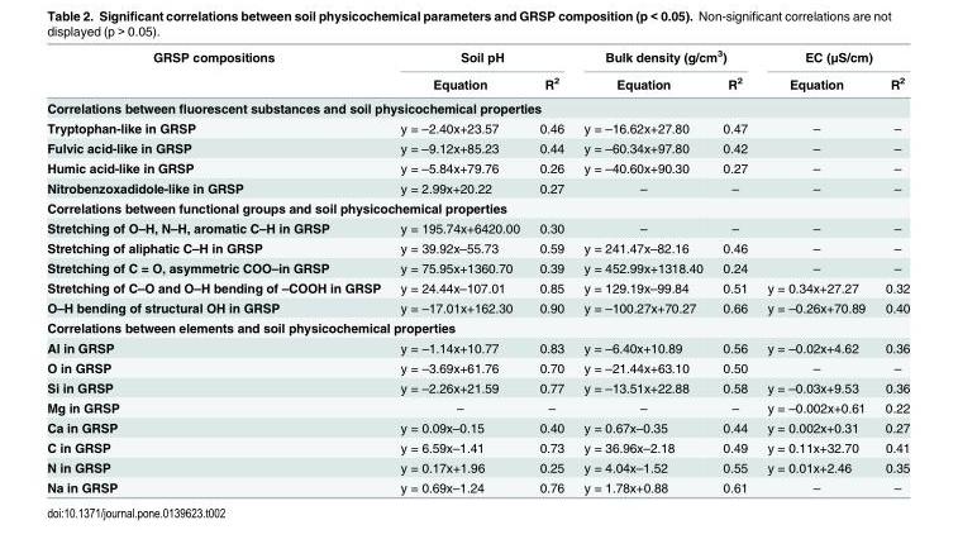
<table><thead><tr><td rowspan="2">GRSP compositions</td><td colspan="2">Soil pH</td><td colspan="2">Bulk density (g/cm<sup>3</sup>)</td><td colspan="2">EC (μS/cm)</td></tr><tr><td>Equation</td><td>R<sup>2</sup></td><td>Equation</td><td>R<sup>2</sup></td><td>Equation</td><td>R<sup>2</sup></td></tr></thead><tbody><tr><td colspan="7">Correlations between fluorescent substances and soil physicochemical properties</td></tr><tr><td>Tryptophan-like in GRSP</td><td>y = –2.40x+23.57</td><td>0.46</td><td>y = –16.62x+27.80</td><td>0.47</td><td>–</td><td>–</td></tr><tr><td>Fulvic acid-like in GRSP</td><td>y = –9.12x+85.23</td><td>0.44</td><td>y = –60.34x+97.80</td><td>0.42</td><td>–</td><td>–</td></tr><tr><td>Humic acid-like in GRSP</td><td>y = –5.84x+79.76</td><td>0.26</td><td>y = –40.60x+90.30</td><td>0.27</td><td>–</td><td>–</td></tr><tr><td>Nitrobenzoxadidole-like in GRSP</td><td>y = 2.99x+20.22</td><td>0.27</td><td>–</td><td>–</td><td>–</td><td>–</td></tr><tr><td colspan="7">Correlations between functional groups and soil physicochemical properties</td></tr><tr><td>Stretching of O–H, N–H, aromatic C–H in GRSP</td><td>y = 195.74x+6420.00</td><td>0.30</td><td>–</td><td>–</td><td>–</td><td>–</td></tr><tr><td>Stretching of aliphatic C–H in GRSP</td><td>y = 39.92x–55.73</td><td>0.59</td><td>y = 241.47x–82.16</td><td>0.46</td><td>–</td><td>–</td></tr><tr><td>Stretching of C = O, asymmetric COO–in GRSP</td><td>y = 75.95x+1360.70</td><td>0.39</td><td>y = 452.99x+1318.40</td><td>0.24</td><td>–</td><td>–</td></tr><tr><td>Stretching of C–O and O–H bending of –COOH in GRSP</td><td>y = 24.44x–107.01</td><td>0.85</td><td>y = 129.19x–99.84</td><td>0.51</td><td>y = 0.34x+27.27</td><td>0.32</td></tr><tr><td>O–H bending of structural OH in GRSP</td><td>y = –17.01x+162.30</td><td>0.90</td><td>y = –100.27x+70.27</td><td>0.66</td><td>y = –0.26x+70.89</td><td>0.40</td></tr><tr><td colspan="7">Correlations between elements and soil physicochemical properties</td></tr><tr><td>Al in GRSP</td><td>y = –1.14x+10.77</td><td>0.83</td><td>y = –6.40x+10.89</td><td>0.56</td><td>y = –0.02x+4.62</td><td>0.36</td></tr><tr><td>O in GRSP</td><td>y = –3.69x+61.76</td><td>0.70</td><td>y = –21.44x+63.10</td><td>0.50</td><td>–</td><td>–</td></tr><tr><td>Si in GRSP</td><td>y = –2.26x+21.59</td><td>0.77</td><td>y = –13.51x+22.88</td><td>0.58</td><td>y = –0.03x+9.53</td><td>0.36</td></tr><tr><td>Mg in GRSP</td><td>–</td><td>–</td><td>–</td><td>–</td><td>y = –0.002x+0.61</td><td>0.22</td></tr><tr><td>Ca in GRSP</td><td>y = 0.09x–0.15</td><td>0.40</td><td>y = 0.67x–0.35</td><td>0.44</td><td>y = 0.002x+0.31</td><td>0.27</td></tr><tr><td>C in GRSP</td><td>y = 6.59x–1.41</td><td>0.73</td><td>y = 36.96x–2.18</td><td>0.49</td><td>y = 0.11x+32.70</td><td>0.41</td></tr><tr><td>N in GRSP</td><td>y = 0.17x+1.96</td><td>0.25</td><td>y = 4.04x–1.52</td><td>0.55</td><td>y = 0.01x+2.46</td><td>0.35</td></tr><tr><td>Na in GRSP</td><td>y = 0.69x–1.24</td><td>0.76</td><td>y = 1.78x+0.88</td><td>0.61</td><td>–</td><td>–</td></tr></tbody></table>